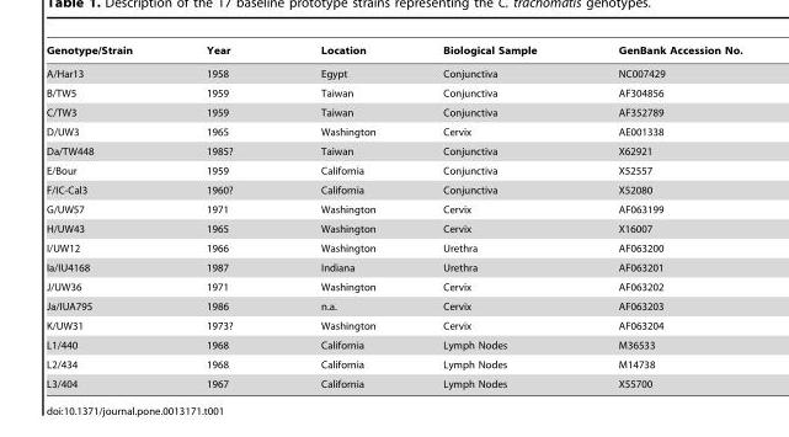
<table><thead><tr><td>Genotype/Strain</td><td>Year</td><td>Location</td><td>Biological Sample</td><td>GenBank Accession No.</td></tr></thead><tbody><tr><td>A/Har13</td><td>1958</td><td>Egypt</td><td>Conjunctiva</td><td>NC007429</td></tr><tr><td>B/TW5</td><td>1959</td><td>Taiwan</td><td>Conjunctiva</td><td>AF304856</td></tr><tr><td>C/TW3</td><td>1959</td><td>Taiwan</td><td>Conjunctiva</td><td>AF352789</td></tr><tr><td>D/UW3</td><td>1965</td><td>Washington</td><td>Cervix</td><td>AE001338</td></tr><tr><td>Da/TW448</td><td>1985?</td><td>Taiwan</td><td>Conjunctiva</td><td>X62921</td></tr><tr><td>E/Bour</td><td>1959</td><td>California</td><td>Conjunctiva</td><td>X52557</td></tr><tr><td>F/IC-Cal3</td><td>1960?</td><td>California</td><td>Conjunctiva</td><td>X52080</td></tr><tr><td>G/UW57</td><td>1971</td><td>Washington</td><td>Cervix</td><td>AF063199</td></tr><tr><td>H/UW43</td><td>1965</td><td>Washington</td><td>Cervix</td><td>X16007</td></tr><tr><td>I/UW12</td><td>1966</td><td>Washington</td><td>Urethra</td><td>AF063200</td></tr><tr><td>Ia/IU4168</td><td>1987</td><td>Indiana</td><td>Urethra</td><td>AF063201</td></tr><tr><td>J/UW36</td><td>1971</td><td>Washington</td><td>Cervix</td><td>AF063202</td></tr><tr><td>Ja/IUA795</td><td>1986</td><td>n.a.</td><td>Cervix</td><td>AF063203</td></tr><tr><td>K/UW31</td><td>1973?</td><td>Washington</td><td>Cervix</td><td>AF063204</td></tr><tr><td>L1/440</td><td>1968</td><td>California</td><td>Lymph Nodes</td><td>M36533</td></tr><tr><td>L2/434</td><td>1968</td><td>California</td><td>Lymph Nodes</td><td>M14738</td></tr><tr><td>L3/404</td><td>1967</td><td>California</td><td>Lymph Nodes</td><td>X55700</td></tr></tbody></table>